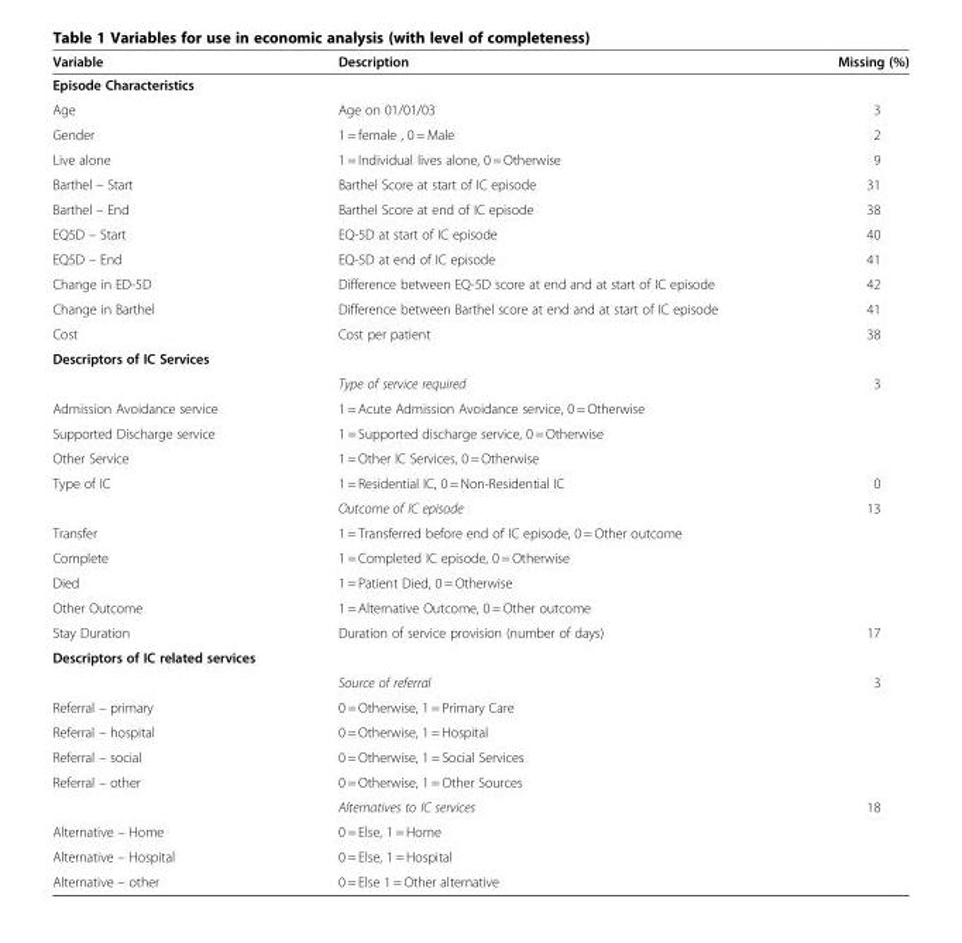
<table><thead><tr><td>Variable</td><td>Description</td><td>Missing (%)</td></tr></thead><tbody><tr><td colspan="3">Episode Characteristics</td></tr><tr><td>Age</td><td>Age on 01/01/03</td><td>3</td></tr><tr><td>Gender</td><td>1 = female , 0 = Male</td><td>2</td></tr><tr><td>Live alone</td><td>1 = Individual lives alone, 0 = Otherwise</td><td>9</td></tr><tr><td>Barthel – Start</td><td>Barthel Score at start of IC episode</td><td>31</td></tr><tr><td>Barthel – End</td><td>Barthel Score at end of IC episode</td><td>38</td></tr><tr><td>EQ5D – Start</td><td>EQ-5D at start of IC episode</td><td>40</td></tr><tr><td>EQ5D – End</td><td>EQ-5D at end of IC episode</td><td>41</td></tr><tr><td>Change in ED-5D</td><td>Difference between EQ-5D score at end and at start of IC episode</td><td>42</td></tr><tr><td>Change in Barthel</td><td>Difference between Barthel score at end and at start of IC episode</td><td>41</td></tr><tr><td>Cost</td><td>Cost per patient</td><td>38</td></tr><tr><td colspan="3">Descriptors of IC Services</td></tr><tr><td></td><td>Type of service required</td><td>3</td></tr><tr><td>Admission Avoidance service</td><td>1 = Acute Admission Avoidance service, 0 = Otherwise</td><td></td></tr><tr><td>Supported Discharge service</td><td>1 = Supported discharge service, 0 = Otherwise</td><td></td></tr><tr><td>Other Service</td><td>1 = Other IC Services, 0 = Otherwise</td><td></td></tr><tr><td rowspan="2">Type of IC</td><td>1 = Residential IC, 0 = Non-Residential IC</td><td>0</td></tr><tr><td>Outcome of IC episode</td><td>13</td></tr><tr><td>Transfer</td><td>1 = Transferred before end of IC episode, 0 = Other outcome</td><td></td></tr><tr><td>Complete</td><td>1 = Completed IC episode, 0 = Otherwise</td><td></td></tr><tr><td>Died</td><td>1 = Patient Died, 0 = Otherwise</td><td></td></tr><tr><td>Other Outcome</td><td>1 = Alternative Outcome, 0 = Other outcome</td><td></td></tr><tr><td>Stay Duration</td><td>Duration of service provision (number of days)</td><td>17</td></tr><tr><td colspan="3">Descriptors of IC related services</td></tr><tr><td></td><td>Source of referral</td><td>3</td></tr><tr><td>Referral – primary</td><td>0 = Otherwise, 1 = Primary Care</td><td></td></tr><tr><td>Referral – hospital</td><td>0 = Otherwise, 1 = Hospital</td><td></td></tr><tr><td>Referral – social</td><td>0 = Otherwise, 1 = Social Services</td><td></td></tr><tr><td rowspan="2">Referral – other</td><td>0 = Otherwise, 1 = Other Sources</td><td></td></tr><tr><td>Alternatives to IC services</td><td>18</td></tr><tr><td>Alternative – Home</td><td>0 = Else, 1 = Home</td><td></td></tr><tr><td>Alternative – Hospital</td><td>0 = Else, 1 = Hospital</td><td></td></tr><tr><td>Alternative – other</td><td>0 = Else 1 = Other alternative</td><td></td></tr></tbody></table>